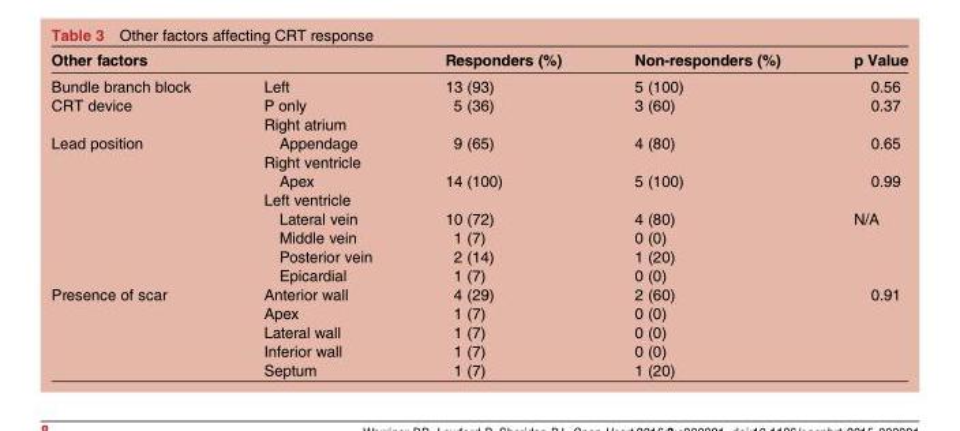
<table><thead><tr><td colspan="2">Other factors</td><td rowspan="2">Responders (%) 13 (93)</td><td rowspan="2">Non-responders (%) 5 (100)</td><td rowspan="2">p Value 0.56</td></tr><tr><td>Bundle branch block</td><td>Left</td></tr></thead><tbody><tr><td rowspan="2">CRT device</td><td>P only</td><td>5 (36)</td><td>3 (60)</td><td>0.37</td></tr><tr><td>Right atrium</td><td></td><td></td><td></td></tr><tr><td rowspan="8">Lead position</td><td>Appendage</td><td>9 (65)</td><td>4 (80)</td><td>0.65</td></tr><tr><td>Right ventricle</td><td></td><td></td><td></td></tr><tr><td>Apex</td><td>14 (100)</td><td>5 (100)</td><td>0.99</td></tr><tr><td>Left ventricle</td><td></td><td></td><td></td></tr><tr><td>Lateral vein</td><td>10 (72)</td><td>4 (80)</td><td rowspan="4">N/A</td></tr><tr><td>Middle vein</td><td>1 (7)</td><td>0 (0)</td></tr><tr><td>Posterior vein</td><td>2 (14)</td><td>1 (20)</td></tr><tr><td>Epicardial</td><td>1 (7)</td><td>0 (0)</td></tr><tr><td rowspan="5">Presence of scar</td><td>Anterior wall</td><td>4 (29)</td><td>2 (60)</td><td rowspan="5">0.91</td></tr><tr><td>Apex</td><td>1 (7)</td><td>0 (0)</td></tr><tr><td>Lateral wall</td><td>1 (7)</td><td>0 (0)</td></tr><tr><td>Inferior wall</td><td>1 (7)</td><td>0 (0)</td></tr><tr><td>Septum</td><td>1 (7)</td><td>1 (20)</td></tr></tbody></table>